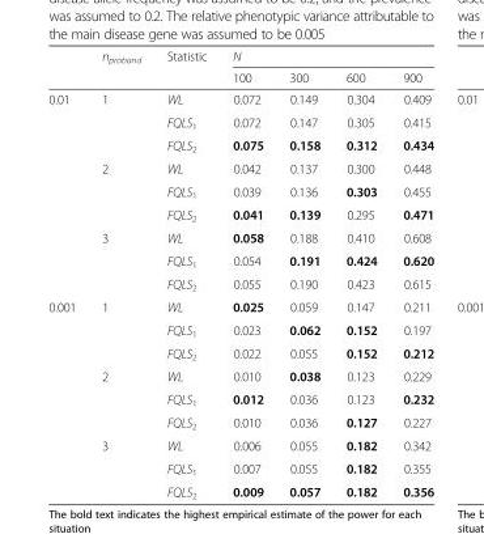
<table><thead><tr><td rowspan="2"></td><td rowspan="2">n<sub>proband</sub></td><td rowspan="2">Statistic</td><td colspan="4">N</td></tr><tr><td>100</td><td>300</td><td>600</td><td>900</td></tr></thead><tbody><tr><td rowspan="9">0.01</td><td rowspan="3">1</td><td>WL</td><td>0.072</td><td>0.149</td><td>0.304</td><td>0.409</td></tr><tr><td>FQLS<sub>1</sub></td><td>0.072</td><td>0.147</td><td>0.305</td><td>0.415</td></tr><tr><td>FQLS<sub>2</sub></td><td>0.075</td><td>0.158</td><td>0.312</td><td>0.434</td></tr><tr><td rowspan="3">2</td><td>WL</td><td>0.042</td><td>0.137</td><td>0.300</td><td>0.448</td></tr><tr><td>FQLS<sub>1</sub></td><td>0.039</td><td>0.136</td><td>0.303</td><td>0.455</td></tr><tr><td>FQLS<sub>2</sub></td><td>0.041</td><td>0.139</td><td>0.295</td><td>0.471</td></tr><tr><td rowspan="3">3</td><td>WL</td><td>0.058</td><td>0.188</td><td>0.410</td><td>0.608</td></tr><tr><td>FQLS<sub>1</sub></td><td>0.054</td><td>0.191</td><td>0.424</td><td>0.620</td></tr><tr><td>FQLS<sub>2</sub></td><td>0.055</td><td>0.190</td><td>0.423</td><td>0.615</td></tr><tr><td rowspan="9">0.001</td><td rowspan="3">1</td><td>WL</td><td>0.025</td><td>0.059</td><td>0.147</td><td>0.211</td></tr><tr><td>FQLS<sub>1</sub></td><td>0.023</td><td>0.062</td><td>0.152</td><td>0.197</td></tr><tr><td>FQLS<sub>2</sub></td><td>0.022</td><td>0.055</td><td>0.152</td><td>0.212</td></tr><tr><td rowspan="3">2</td><td>WL</td><td>0.010</td><td>0.038</td><td>0.123</td><td>0.229</td></tr><tr><td>FQLS<sub>1</sub></td><td>0.012</td><td>0.036</td><td>0.123</td><td>0.232</td></tr><tr><td>FQLS<sub>2</sub></td><td>0.010</td><td>0.036</td><td>0.127</td><td>0.227</td></tr><tr><td rowspan="3">3</td><td>WL</td><td>0.006</td><td>0.055</td><td>0.182</td><td>0.342</td></tr><tr><td>FQLS<sub>1</sub></td><td>0.007</td><td>0.055</td><td>0.182</td><td>0.355</td></tr><tr><td>FQLS<sub>2</sub></td><td>0.009</td><td>0.057</td><td>0.182</td><td>0.356</td></tr></tbody></table>